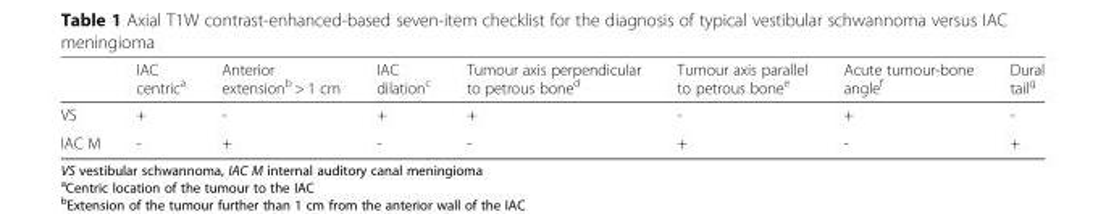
<table><thead><tr><td></td><td>IAC centric<sup>a</sup></td><td>Anterior extension<sup>b</sup> &gt; 1 cm</td><td>IAC dilation<sup>c</sup></td><td>Tumour axis perpendicular to petrous bone<sup>d</sup></td><td>Tumour axis parallel to petrous bone<sup>e</sup></td><td>Acute tumour-bone angle<sup>f</sup></td><td>Dural tail<sup>g</sup></td></tr></thead><tbody><tr><td>VS</td><td>+</td><td>-</td><td>+</td><td>+</td><td>-</td><td>+</td><td>-</td></tr><tr><td>IAC M</td><td>-</td><td>+</td><td>-</td><td>-</td><td>+</td><td>-</td><td>+</td></tr></tbody></table>